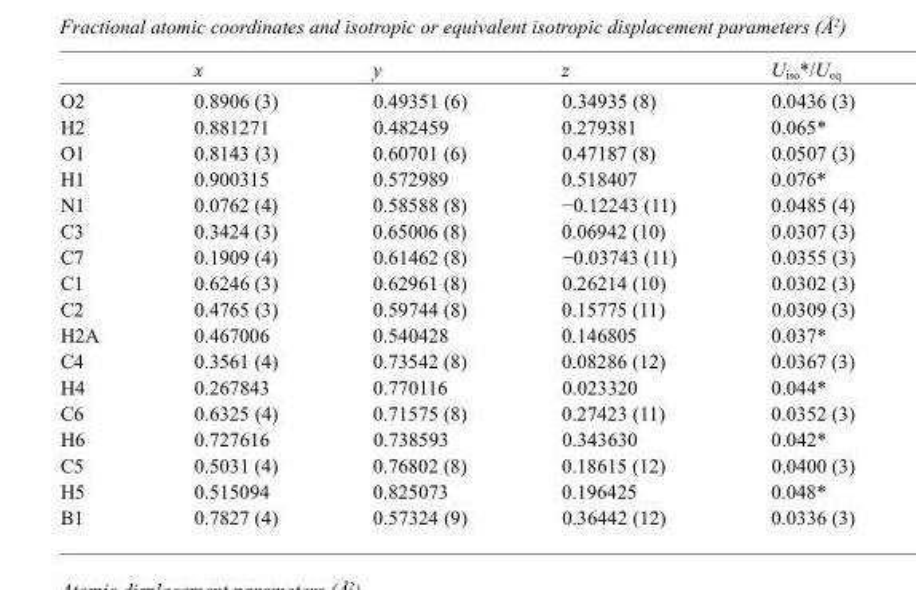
<table><thead><tr><td></td><td>x</td><td>y</td><td>z</td><td>U<sub>iso</sub>*/U<sub>eq</sub></td></tr></thead><tbody><tr><td>O2</td><td>0.8906 (3)</td><td>0.49351 (6)</td><td>0.34935 (8)</td><td>0.0436 (3)</td></tr><tr><td>H2</td><td>0.881271</td><td>0.482459</td><td>0.279381</td><td>0.065*</td></tr><tr><td>O1</td><td>0.8143 (3)</td><td>0.60701 (6)</td><td>0.47187 (8)</td><td>0.0507 (3)</td></tr><tr><td>H1</td><td>0.900315</td><td>0.572989</td><td>0.518407</td><td>0.076*</td></tr><tr><td>N1</td><td>0.0762 (4)</td><td>0.58588 (8)</td><td>−0.12243 (11)</td><td>0.0485 (4)</td></tr><tr><td>C3</td><td>0.3424 (3)</td><td>0.65006 (8)</td><td>0.06942 (10)</td><td>0.0307 (3)</td></tr><tr><td>C7</td><td>0.1909 (4)</td><td>0.61462 (8)</td><td>−0.03743 (11)</td><td>0.0355 (3)</td></tr><tr><td>C1</td><td>0.6246 (3)</td><td>0.62961 (8)</td><td>0.26214 (10)</td><td>0.0302 (3)</td></tr><tr><td>C2</td><td>0.4765 (3)</td><td>0.59744 (8)</td><td>0.15775 (11)</td><td>0.0309 (3)</td></tr><tr><td>H2A</td><td>0.467006</td><td>0.540428</td><td>0.146805</td><td>0.037*</td></tr><tr><td>C4</td><td>0.3561 (4)</td><td>0.73542 (8)</td><td>0.08286 (12)</td><td>0.0367 (3)</td></tr><tr><td>H4</td><td>0.267843</td><td>0.770116</td><td>0.023320</td><td>0.044*</td></tr><tr><td>C6</td><td>0.6325 (4)</td><td>0.71575 (8)</td><td>0.27423 (11)</td><td>0.0352 (3)</td></tr><tr><td>H6</td><td>0.727616</td><td>0.738593</td><td>0.343630</td><td>0.042*</td></tr><tr><td>C5</td><td>0.5031 (4)</td><td>0.76802 (8)</td><td>0.18615 (12)</td><td>0.0400 (3)</td></tr><tr><td>H5</td><td>0.515094</td><td>0.825073</td><td>0.196425</td><td>0.048*</td></tr><tr><td>B1</td><td>0.7827 (4)</td><td>0.57324 (9)</td><td>0.36442 (12)</td><td>0.0336 (3)</td></tr></tbody></table>